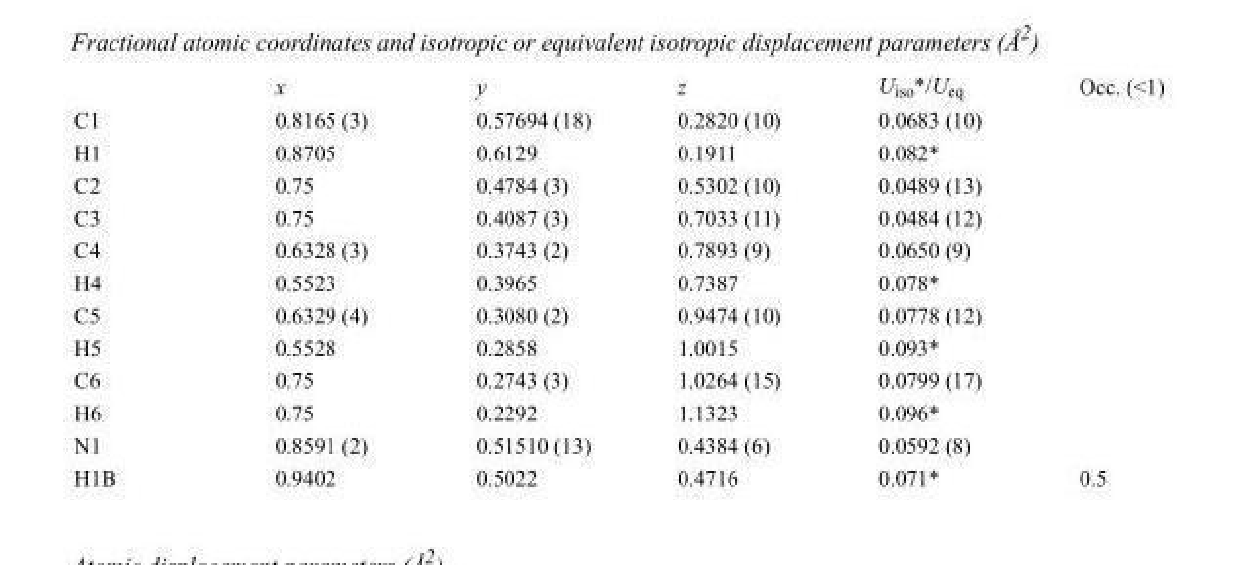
<table><thead><tr><td></td><td>x</td><td>y</td><td>z</td><td>U<sub>iso</sub>*/U<sub>eq</sub></td><td>Occ. (&lt;1)</td></tr></thead><tbody><tr><td>C1</td><td>0.8165 (3)</td><td>0.57694 (18)</td><td>0.2820 (10)</td><td>0.0683 (10)</td><td></td></tr><tr><td>H1</td><td>0.8705</td><td>0.6129</td><td>0.1911</td><td>0.082*</td><td></td></tr><tr><td>C2</td><td>0.75</td><td>0.4784 (3)</td><td>0.5302 (10)</td><td>0.0489 (13)</td><td></td></tr><tr><td>C3</td><td>0.75</td><td>0.4087 (3)</td><td>0.7033 (11)</td><td>0.0484 (12)</td><td></td></tr><tr><td>C4</td><td>0.6328 (3)</td><td>0.3743 (2)</td><td>0.7893 (9)</td><td>0.0650 (9)</td><td></td></tr><tr><td>H4</td><td>0.5523</td><td>0.3965</td><td>0.7387</td><td>0.078*</td><td></td></tr><tr><td>C5</td><td>0.6329 (4)</td><td>0.3080 (2)</td><td>0.9474 (10)</td><td>0.0778 (12)</td><td></td></tr><tr><td>H5</td><td>0.5528</td><td>0.2858</td><td>1.0015</td><td>0.093*</td><td></td></tr><tr><td>C6</td><td>0.75</td><td>0.2743 (3)</td><td>1.0264 (15)</td><td>0.0799 (17)</td><td></td></tr><tr><td>H6</td><td>0.75</td><td>0.2292</td><td>1.1323</td><td>0.096*</td><td></td></tr><tr><td>N1</td><td>0.8591 (2)</td><td>0.51510 (13)</td><td>0.4384 (6)</td><td>0.0592 (8)</td><td></td></tr><tr><td>H1B</td><td>0.9402</td><td>0.5022</td><td>0.4716</td><td>0.071*</td><td>0.5</td></tr></tbody></table>